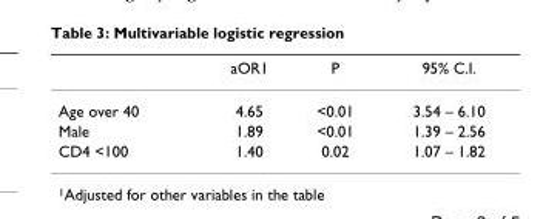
<table><thead><tr><td></td><td>aOR1</td><td>P</td><td>95% C.I.</td></tr></thead><tbody><tr><td>Age over 40</td><td>4.65</td><td>&lt;0.01</td><td>3.54 – 6.10</td></tr><tr><td>Male</td><td>1.89</td><td>&lt;0.01</td><td>1.39 – 2.56</td></tr><tr><td>CD4 &lt;100</td><td>1.40</td><td>0.02</td><td>1.07 – 1.82</td></tr></tbody></table>